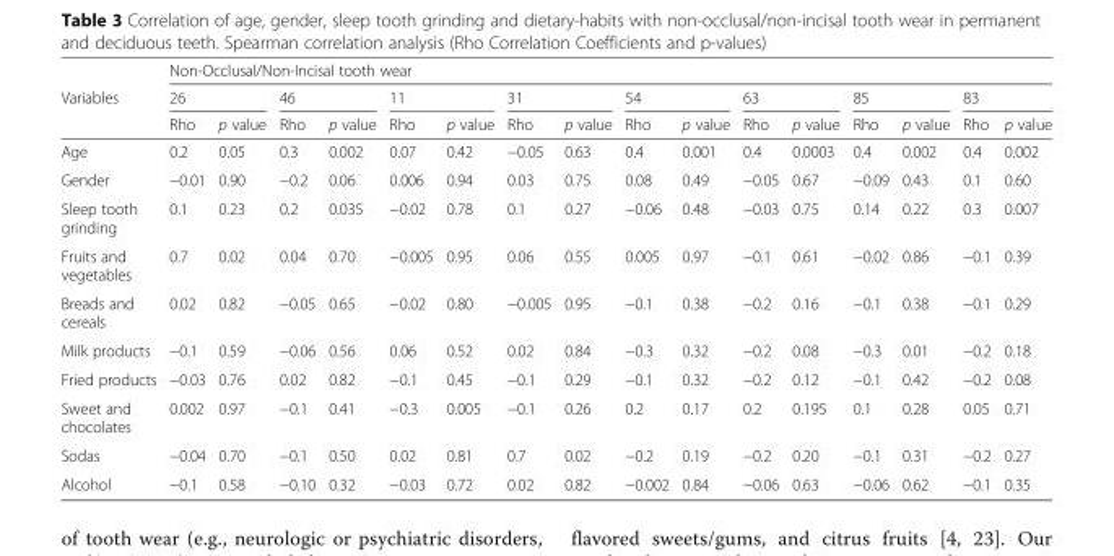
<table><thead><tr><td rowspan="3">Variables</td><td colspan="16">Non-Occlusal/Non-Incisal tooth wear</td></tr><tr><td colspan="2">26</td><td colspan="2">46</td><td colspan="2">11</td><td colspan="2">31</td><td colspan="2">54</td><td colspan="2">63</td><td colspan="2">85</td><td colspan="2">83</td></tr><tr><td>Rho</td><td>p value</td><td>Rho</td><td>p value</td><td>Rho</td><td>p value</td><td>Rho</td><td>p value</td><td>Rho</td><td>p value</td><td>Rho</td><td>p value</td><td>Rho</td><td>p value</td><td>Rho</td><td>p value</td></tr></thead><tbody><tr><td>Age</td><td>0.2</td><td>0.05</td><td>0.3</td><td>0.002</td><td>0.07</td><td>0.42</td><td>−0.05</td><td>0.63</td><td>0.4</td><td>0.001</td><td>0.4</td><td>0.0003</td><td>0.4</td><td>0.002</td><td>0.4</td><td>0.002</td></tr><tr><td>Gender</td><td>−0.01</td><td>0.90</td><td>−0.2</td><td>0.06</td><td>0.006</td><td>0.94</td><td>0.03</td><td>0.75</td><td>0.08</td><td>0.49</td><td>−0.05</td><td>0.67</td><td>−0.09</td><td>0.43</td><td>0.1</td><td>0.60</td></tr><tr><td>Sleep tooth grinding</td><td>0.1</td><td>0.23</td><td>0.2</td><td>0.035</td><td>−0.02</td><td>0.78</td><td>0.1</td><td>0.27</td><td>−0.06</td><td>0.48</td><td>−0.03</td><td>0.75</td><td>0.14</td><td>0.22</td><td>0.3</td><td>0.007</td></tr><tr><td>Fruits and vegetables</td><td>0.7</td><td>0.02</td><td>0.04</td><td>0.70</td><td>−0.005</td><td>0.95</td><td>0.06</td><td>0.55</td><td>0.005</td><td>0.97</td><td>−0.1</td><td>0.61</td><td>−0.02</td><td>0.86</td><td>−0.1</td><td>0.39</td></tr><tr><td>Breads and cereals</td><td>0.02</td><td>0.82</td><td>−0.05</td><td>0.65</td><td>−0.02</td><td>0.80</td><td>−0.005</td><td>0.95</td><td>−0.1</td><td>0.38</td><td>−0.2</td><td>0.16</td><td>−0.1</td><td>0.38</td><td>−0.1</td><td>0.29</td></tr><tr><td>Milk products</td><td>−0.1</td><td>0.59</td><td>−0.06</td><td>0.56</td><td>0.06</td><td>0.52</td><td>0.02</td><td>0.84</td><td>−0.3</td><td>0.32</td><td>−0.2</td><td>0.08</td><td>−0.3</td><td>0.01</td><td>−0.2</td><td>0.18</td></tr><tr><td>Fried products</td><td>−0.03</td><td>0.76</td><td>0.02</td><td>0.82</td><td>−0.1</td><td>0.45</td><td>−0.1</td><td>0.29</td><td>−0.1</td><td>0.32</td><td>−0.2</td><td>0.12</td><td>−0.1</td><td>0.42</td><td>−0.2</td><td>0.08</td></tr><tr><td>Sweet and chocolates</td><td>0.002</td><td>0.97</td><td>−0.1</td><td>0.41</td><td>−0.3</td><td>0.005</td><td>−0.1</td><td>0.26</td><td>0.2</td><td>0.17</td><td>0.2</td><td>0.195</td><td>0.1</td><td>0.28</td><td>0.05</td><td>0.71</td></tr><tr><td>Sodas</td><td>−0.04</td><td>0.70</td><td>−0.1</td><td>0.50</td><td>0.02</td><td>0.81</td><td>0.7</td><td>0.02</td><td>−0.2</td><td>0.19</td><td>−0.2</td><td>0.20</td><td>−0.1</td><td>0.31</td><td>−0.2</td><td>0.27</td></tr><tr><td>Alcohol</td><td>−0.1</td><td>0.58</td><td>−0.10</td><td>0.32</td><td>−0.03</td><td>0.72</td><td>0.02</td><td>0.82</td><td>−0.002</td><td>0.84</td><td>−0.06</td><td>0.63</td><td>−0.06</td><td>0.62</td><td>−0.1</td><td>0.35</td></tr></tbody></table>